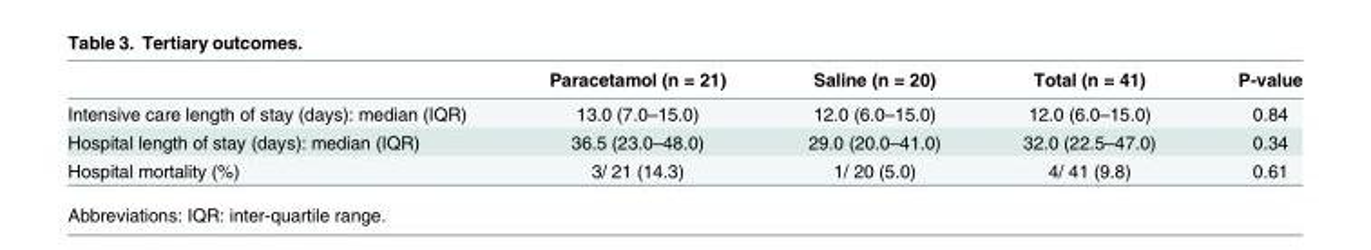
<table><thead><tr><td></td><td>Paracetamol (n = 21)</td><td>Saline (n = 20)</td><td>Total (n = 41)</td><td>P-value</td></tr></thead><tbody><tr><td>Intensive care length of stay (days): median (IQR)</td><td>13.0 (7.0–15.0)</td><td>12.0 (6.0–15.0)</td><td>12.0 (6.0–15.0)</td><td>0.84</td></tr><tr><td>Hospital length of stay (days): median (IQR)</td><td>36.5 (23.0–48.0)</td><td>29.0 (20.0–41.0)</td><td>32.0 (22.5–47.0)</td><td>0.34</td></tr><tr><td>Hospital mortality (%)</td><td>3/ 21 (14.3)</td><td>1/ 20 (5.0)</td><td>4/ 41 (9.8)</td><td>0.61</td></tr></tbody></table>